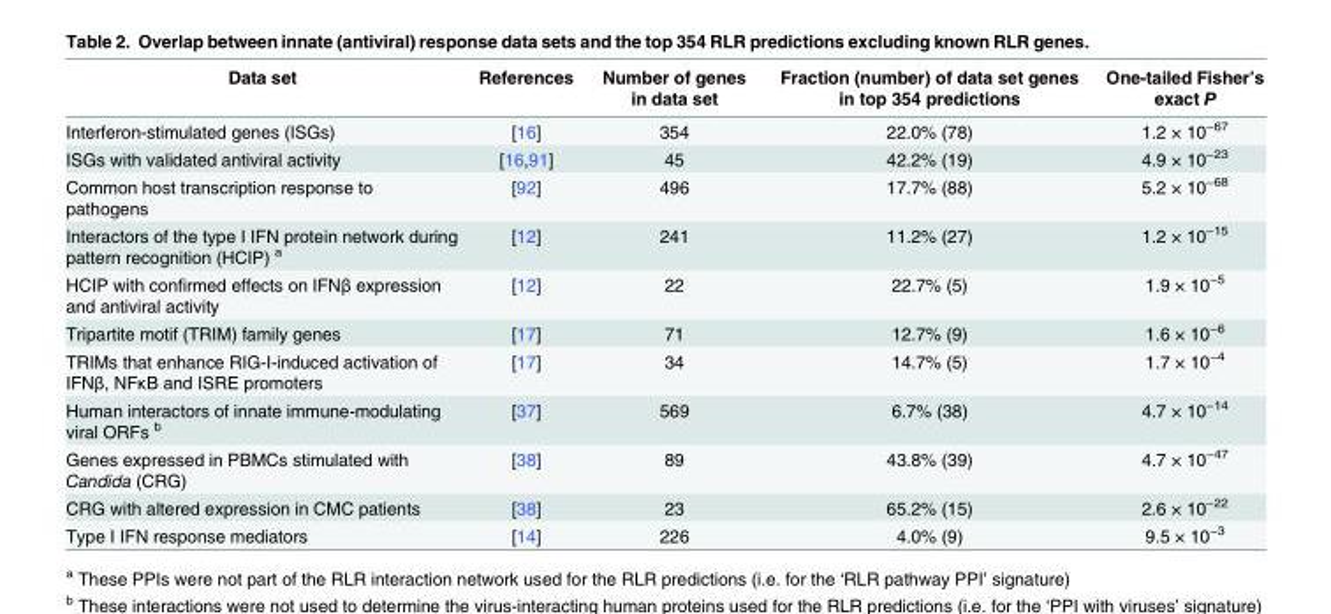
<table><thead><tr><td>Data set</td><td>References</td><td>Number of genes in data set</td><td>Fraction (number) of data set genes in top 354 predictions</td><td>One-tailed Fisher’s exact P</td></tr></thead><tbody><tr><td>Interferon-stimulated genes (ISGs)</td><td>[16]</td><td>354</td><td>22.0% (78)</td><td>1.2 × 10<sup>−67</sup></td></tr><tr><td>ISGs with validated antiviral activity</td><td>[16,91]</td><td>45</td><td>42.2% (19)</td><td>4.9 × 10<sup>−23</sup></td></tr><tr><td>Common host transcription response to pathogens</td><td>[92]</td><td>496</td><td>17.7% (88)</td><td>5.2 × 10<sup>−68</sup></td></tr><tr><td>Interactors of the type I IFN protein network during pattern recognition (HCIP) <sup>a</sup></td><td>[12]</td><td>241</td><td>11.2% (27)</td><td>1.2 × 10<sup>−15</sup></td></tr><tr><td>HCIP with confirmed effects on IFNβ expression and antiviral activity</td><td>[12]</td><td>22</td><td>22.7% (5)</td><td>1.9 × 10<sup>−5</sup></td></tr><tr><td>Tripartite motif (TRIM) family genes</td><td>[17]</td><td>71</td><td>12.7% (9)</td><td>1.6 × 10<sup>−6</sup></td></tr><tr><td>TRIMs that enhance RIG-I-induced activation of IFNβ, NFκB and ISRE promoters</td><td>[17]</td><td>34</td><td>14.7% (5)</td><td>1.7 × 10<sup>−4</sup></td></tr><tr><td>Human interactors of innate immune-modulating viral ORFs <sup>b</sup></td><td>[37]</td><td>569</td><td>6.7% (38)</td><td>4.7 × 10<sup>−14</sup></td></tr><tr><td>Genes expressed in PBMCs stimulated with Candida (CRG)</td><td>[38]</td><td>89</td><td>43.8% (39)</td><td>4.7 × 10<sup>−47</sup></td></tr><tr><td>CRG with altered expression in CMC patients</td><td>[38]</td><td>23</td><td>65.2% (15)</td><td>2.6 × 10<sup>−22</sup></td></tr><tr><td>Type I IFN response mediators</td><td>[14]</td><td>226</td><td>4.0% (9)</td><td>9.5 × 10<sup>−3</sup></td></tr></tbody></table>